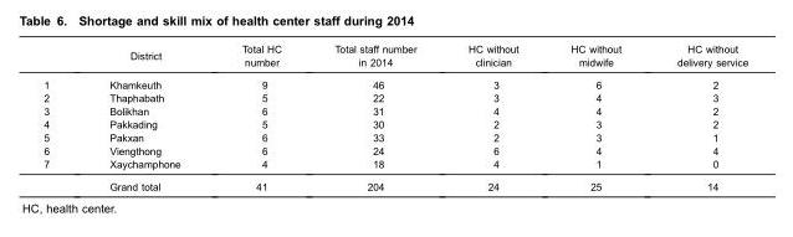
<table><thead><tr><td></td><td>District</td><td>Total HC number</td><td>Total staff number in 2014</td><td>HC without clinician</td><td>HC without midwife</td><td>HC without delivery service</td></tr></thead><tbody><tr><td>1</td><td>Khamkeuth</td><td>9</td><td>46</td><td>3</td><td>6</td><td>2</td></tr><tr><td>2</td><td>Thaphabath</td><td>5</td><td>22</td><td>3</td><td>4</td><td>3</td></tr><tr><td>3</td><td>Bolikhan</td><td>6</td><td>31</td><td>4</td><td>4</td><td>2</td></tr><tr><td>4</td><td>Pakkading</td><td>5</td><td>30</td><td>2</td><td>3</td><td>2</td></tr><tr><td>5</td><td>Pakxan</td><td>6</td><td>33</td><td>2</td><td>3</td><td>1</td></tr><tr><td>6</td><td>Viengthong</td><td>6</td><td>24</td><td>6</td><td>4</td><td>4</td></tr><tr><td rowspan="2">7</td><td>Xaychamphone</td><td>4</td><td>18</td><td>4</td><td>1</td><td>0</td></tr><tr><td>Grand total</td><td>41</td><td>204</td><td>24</td><td>25</td><td>14</td></tr></tbody></table>